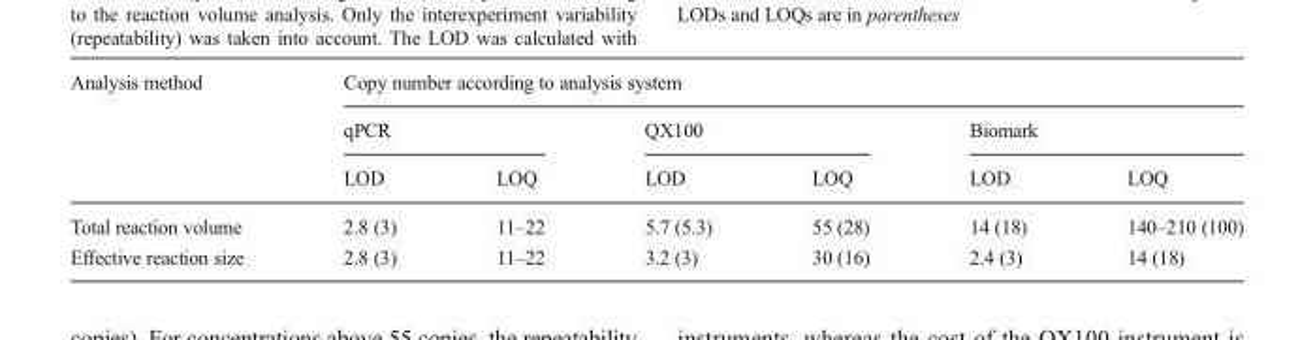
<table><thead><tr><td rowspan="3">Analysis method</td><td colspan="6">Copy number according to analysis system</td></tr><tr><td colspan="2">qPCR</td><td colspan="2">QX100</td><td colspan="2">Biomark</td></tr><tr><td>LOD</td><td>LOQ</td><td>LOD</td><td>LOQ</td><td>LOD</td><td>LOQ</td></tr></thead><tbody><tr><td>Total reaction volume</td><td>2.8 (3)</td><td>11–22</td><td>5.7 (5.3)</td><td>55 (28)</td><td>14 (18)</td><td>140–210 (100)</td></tr><tr><td>Effective reaction size</td><td>2.8 (3)</td><td>11–22</td><td>3.2 (3)</td><td>30 (16)</td><td>2.4 (3)</td><td>14 (18)</td></tr></tbody></table>